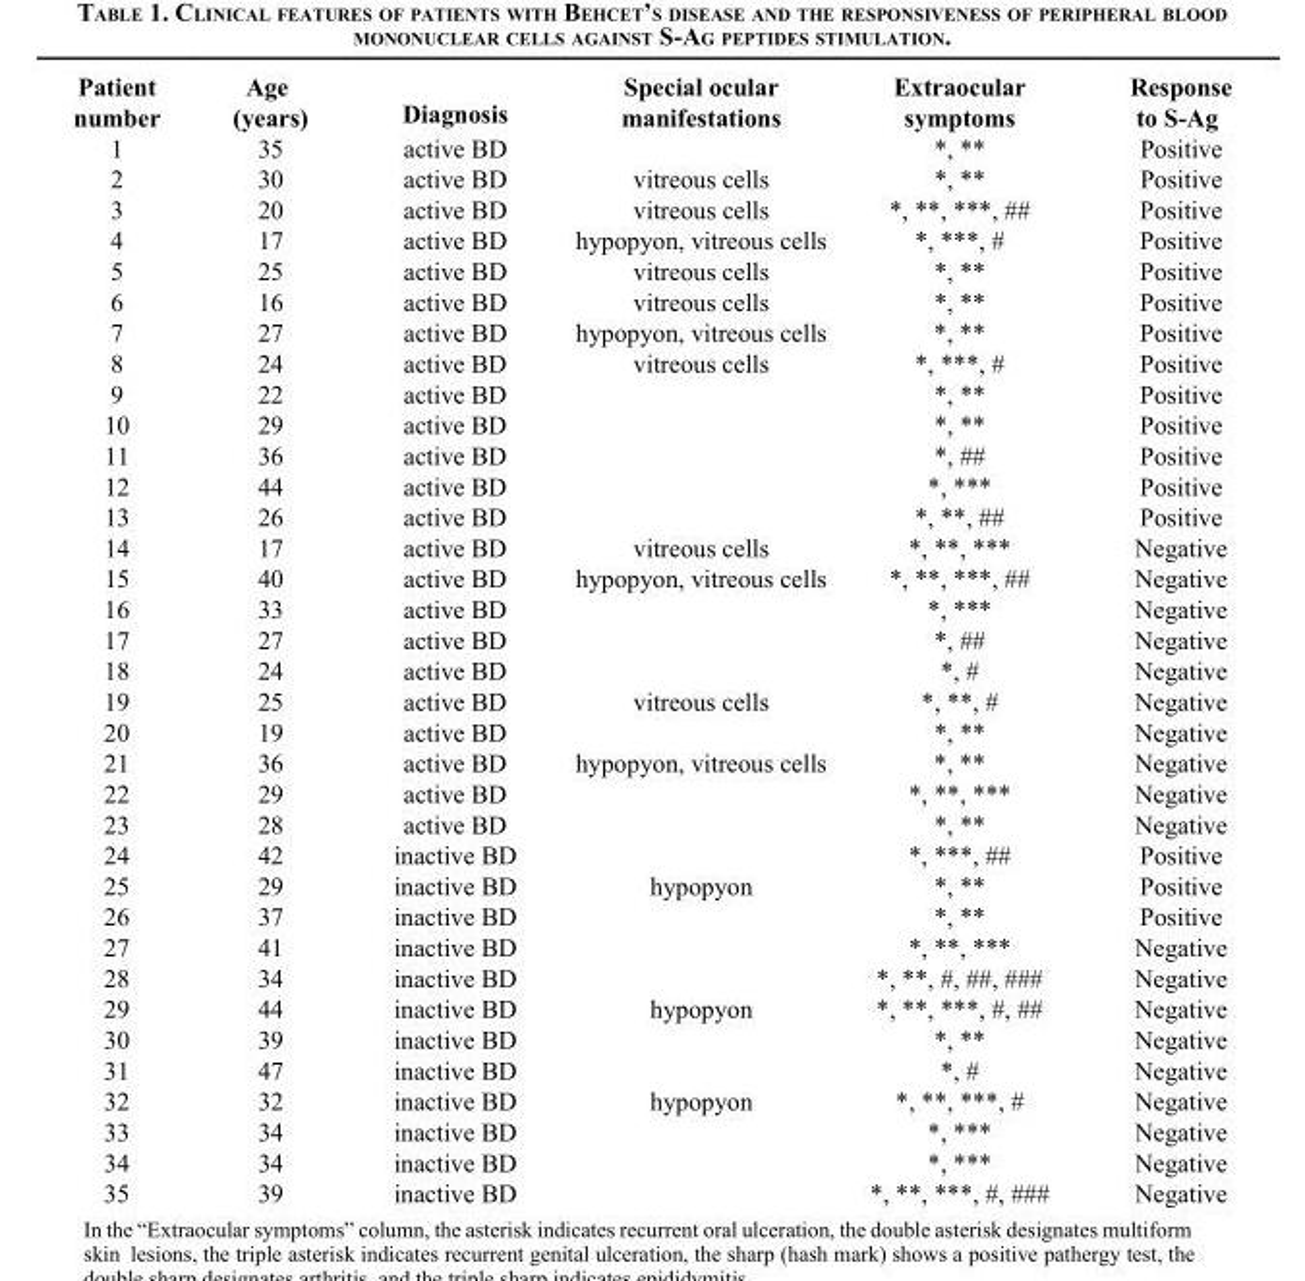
<table><thead><tr><td>Patient number</td><td>Age (years)</td><td>Diagnosis</td><td>Special ocular manifestations</td><td>Extraocular symptoms</td><td>Response to S-Ag</td></tr></thead><tbody><tr><td>1</td><td>35</td><td>active BD</td><td></td><td>*, **</td><td>Positive</td></tr><tr><td>2</td><td>30</td><td>active BD</td><td>vitreous cells</td><td>*, **</td><td>Positive</td></tr><tr><td>3</td><td>20</td><td>active BD</td><td>vitreous cells</td><td>*, **, ***, ##</td><td>Positive</td></tr><tr><td>4</td><td>17</td><td>active BD</td><td>hypopyon, vitreous cells</td><td>*, ***, #</td><td>Positive</td></tr><tr><td>5</td><td>25</td><td>active BD</td><td>vitreous cells</td><td>*, **</td><td>Positive</td></tr><tr><td>6</td><td>16</td><td>active BD</td><td>vitreous cells</td><td>*, **</td><td>Positive</td></tr><tr><td>7</td><td>27</td><td>active BD</td><td>hypopyon, vitreous cells</td><td>*, **</td><td>Positive</td></tr><tr><td>8</td><td>24</td><td>active BD</td><td>vitreous cells</td><td>*, ***, #</td><td>Positive</td></tr><tr><td>9</td><td>22</td><td>active BD</td><td></td><td>*, **</td><td>Positive</td></tr><tr><td>10</td><td>29</td><td>active BD</td><td></td><td>*, **</td><td>Positive</td></tr><tr><td>11</td><td>36</td><td>active BD</td><td></td><td>*, ##</td><td>Positive</td></tr><tr><td>12</td><td>44</td><td>active BD</td><td></td><td>*, ***</td><td>Positive</td></tr><tr><td>13</td><td>26</td><td>active BD</td><td></td><td>*, **, ##</td><td>Positive</td></tr><tr><td>14</td><td>17</td><td>active BD</td><td>vitreous cells</td><td>*, **, ***</td><td>Negative</td></tr><tr><td>15</td><td>40</td><td>active BD</td><td>hypopyon, vitreous cells</td><td>*, **, ***, ##</td><td>Negative</td></tr><tr><td>16</td><td>33</td><td>active BD</td><td></td><td>*, ***</td><td>Negative</td></tr><tr><td>17</td><td>27</td><td>active BD</td><td></td><td>*, ##</td><td>Negative</td></tr><tr><td>18</td><td>24</td><td>active BD</td><td></td><td>*, #</td><td>Negative</td></tr><tr><td>19</td><td>25</td><td>active BD</td><td>vitreous cells</td><td>*, **, #</td><td>Negative</td></tr><tr><td>20</td><td>19</td><td>active BD</td><td></td><td>*, **</td><td>Negative</td></tr><tr><td>21</td><td>36</td><td>active BD</td><td>hypopyon, vitreous cells</td><td>*, **</td><td>Negative</td></tr><tr><td>22</td><td>29</td><td>active BD</td><td></td><td>*, **, ***</td><td>Negative</td></tr><tr><td>23</td><td>28</td><td>active BD</td><td></td><td>*, **</td><td>Negative</td></tr><tr><td>24</td><td>42</td><td>inactive BD</td><td></td><td>*, ***, ##</td><td>Positive</td></tr><tr><td>25</td><td>29</td><td>inactive BD</td><td>hypopyon</td><td>*, **</td><td>Positive</td></tr><tr><td>26</td><td>37</td><td>inactive BD</td><td></td><td>*, **</td><td>Positive</td></tr><tr><td>27</td><td>41</td><td>inactive BD</td><td></td><td>*, **, ***</td><td>Negative</td></tr><tr><td>28</td><td>34</td><td>inactive BD</td><td></td><td>*, **, #, ##, ###</td><td>Negative</td></tr><tr><td>29</td><td>44</td><td>inactive BD</td><td>hypopyon</td><td>*, **, ***, #, ##</td><td>Negative</td></tr><tr><td>30</td><td>39</td><td>inactive BD</td><td></td><td>*, **</td><td>Negative</td></tr><tr><td>31</td><td>47</td><td>inactive BD</td><td></td><td>*, #</td><td>Negative</td></tr><tr><td>32</td><td>32</td><td>inactive BD</td><td>hypopyon</td><td>*, **, ***, #</td><td>Negative</td></tr><tr><td>33</td><td>34</td><td>inactive BD</td><td></td><td>*, ***</td><td>Negative</td></tr><tr><td>34</td><td>34</td><td>inactive BD</td><td></td><td>*, ***</td><td>Negative</td></tr><tr><td>35</td><td>39</td><td>inactive BD</td><td></td><td>*, **, ***, #, ###</td><td>Negative</td></tr></tbody></table>